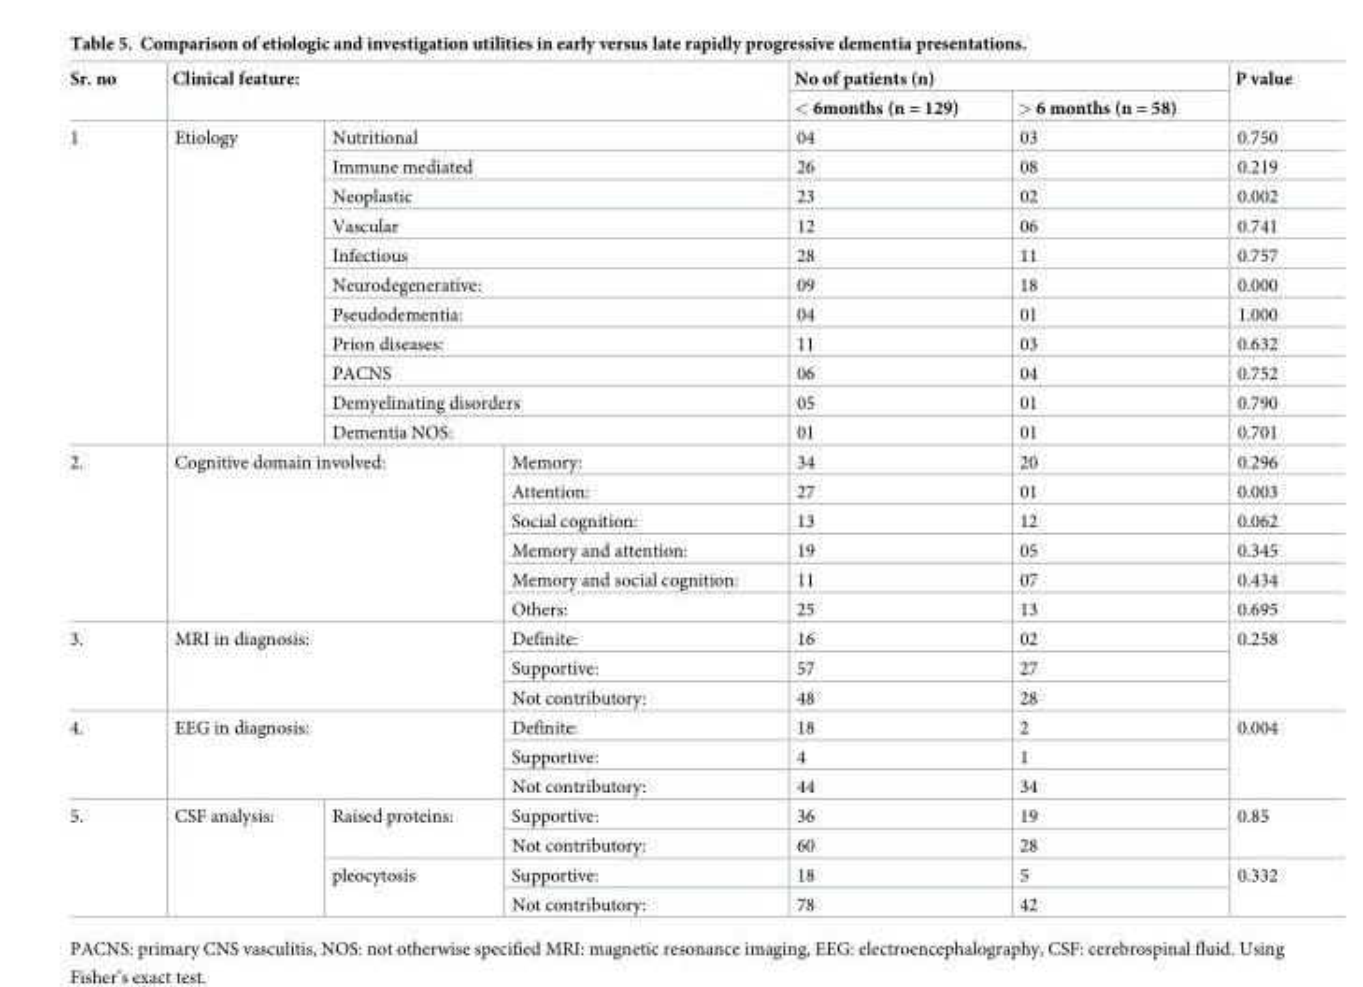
<table><thead><tr><td rowspan="2">Sr. no</td><td rowspan="2" colspan="3">Clinical feature:</td><td colspan="2">No of patients (n)</td><td rowspan="2">P value</td></tr><tr><td>&lt; 6months (n = 129)</td><td>&gt; 6 months (n = 58)</td></tr></thead><tbody><tr><td rowspan="11">1</td><td rowspan="11">Etiology</td><td colspan="2">Nutritional</td><td>04</td><td>03</td><td>0.750</td></tr><tr><td colspan="2">Immune mediated</td><td>26</td><td>08</td><td>0.219</td></tr><tr><td colspan="2">Neoplastic</td><td>23</td><td>02</td><td>0.002</td></tr><tr><td colspan="2">Vascular</td><td>12</td><td>06</td><td>0.741</td></tr><tr><td colspan="2">Infectious</td><td>28</td><td>11</td><td>0.757</td></tr><tr><td colspan="2">Neurodegenerative:</td><td>09</td><td>18</td><td>0.000</td></tr><tr><td colspan="2">Pseudodementia:</td><td>04</td><td>01</td><td>1.000</td></tr><tr><td colspan="2">Prion diseases:</td><td>11</td><td>03</td><td>0.632</td></tr><tr><td colspan="2">PACNS</td><td>06</td><td>04</td><td>0.752</td></tr><tr><td colspan="2">Demyelinating disorders</td><td>05</td><td>01</td><td>0.790</td></tr><tr><td colspan="2">Dementia NOS:</td><td>01</td><td>01</td><td>0.701</td></tr><tr><td rowspan="6">2.</td><td rowspan="6" colspan="2">Cognitive domain involved:</td><td>Memory:</td><td>34</td><td>20</td><td>0.296</td></tr><tr><td>Attention:</td><td>27</td><td>01</td><td>0.003</td></tr><tr><td>Social cognition:</td><td>13</td><td>12</td><td>0.062</td></tr><tr><td>Memory and attention:</td><td>19</td><td>05</td><td>0.345</td></tr><tr><td>Memory and social cognition:</td><td>11</td><td>07</td><td>0.434</td></tr><tr><td>Others:</td><td>25</td><td>13</td><td>0.695</td></tr><tr><td rowspan="3">3.</td><td rowspan="3" colspan="2">MRI in diagnosis:</td><td>Definite:</td><td>16</td><td>02</td><td rowspan="3">0.258</td></tr><tr><td>Supportive:</td><td>57</td><td>27</td></tr><tr><td>Not contributory:</td><td>48</td><td>28</td></tr><tr><td rowspan="3">4.</td><td rowspan="3" colspan="2">EEG in diagnosis:</td><td>Definite:</td><td>18</td><td>2</td><td rowspan="3">0.004</td></tr><tr><td>Supportive:</td><td>4</td><td>1</td></tr><tr><td>Not contributory:</td><td>44</td><td>34</td></tr><tr><td rowspan="4">5.</td><td rowspan="4">CSF analysis:</td><td rowspan="2">Raised proteins:</td><td>Supportive:</td><td>36</td><td>19</td><td rowspan="2">0.85</td></tr><tr><td>Not contributory:</td><td>60</td><td>28</td></tr><tr><td rowspan="2">pleocytosis</td><td>Supportive:</td><td>18</td><td>5</td><td rowspan="2">0.332</td></tr><tr><td>Not contributory:</td><td>78</td><td>42</td></tr></tbody></table>